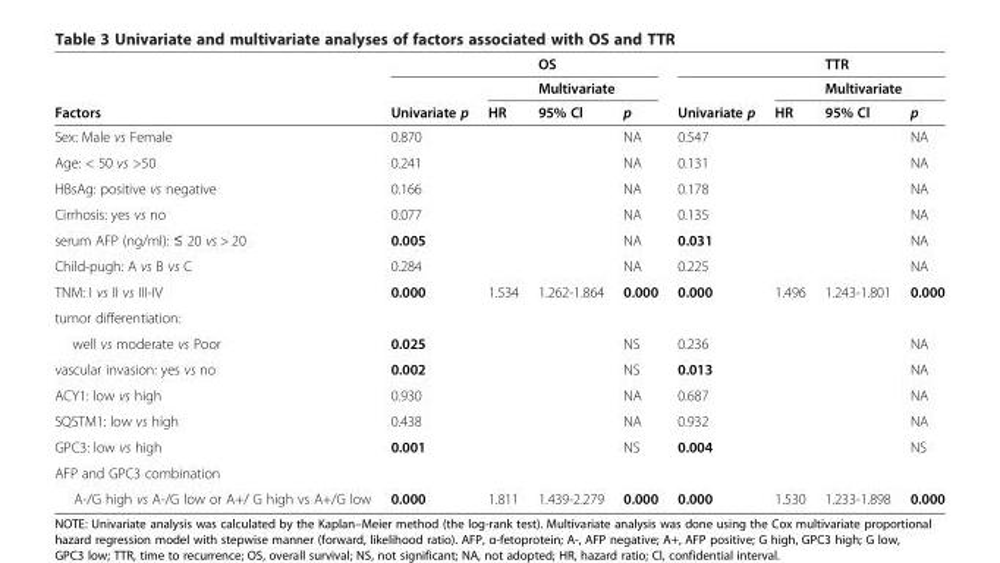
<table><thead><tr><td rowspan="3">Factors</td><td rowspan="3">Univariate p</td><td rowspan="3">HR</td><td rowspan="2" colspan="2">OS Multivariate</td><td rowspan="3">Univariate p</td><td rowspan="3">HR</td><td rowspan="2" colspan="2">TTR Multivariate</td></tr><tr></tr><tr><td>95% Cl</td><td>p</td><td>95% Cl</td><td>p</td></tr></thead><tbody><tr><td>Sex: Male vs Female</td><td>0.870</td><td></td><td></td><td>NA</td><td>0.547</td><td></td><td></td><td>NA</td></tr><tr><td>Age: &lt; 50 vs &gt;50</td><td>0.241</td><td></td><td></td><td>NA</td><td>0.131</td><td></td><td></td><td>NA</td></tr><tr><td>HBsAg: positive vs negative</td><td>0.166</td><td></td><td></td><td>NA</td><td>0.178</td><td></td><td></td><td>NA</td></tr><tr><td>Cirrhosis: yes vs no</td><td>0.077</td><td></td><td></td><td>NA</td><td>0.135</td><td></td><td></td><td>NA</td></tr><tr><td>serum AFP (ng/ml): ≤ 20 vs &gt; 20</td><td>0.005</td><td></td><td></td><td>NA</td><td>0.031</td><td></td><td></td><td>NA</td></tr><tr><td>Child-pugh: A vs B vs C</td><td>0.284</td><td></td><td></td><td>NA</td><td>0.225</td><td></td><td></td><td>NA</td></tr><tr><td>TNM: I vs II vs III-IV</td><td>0.000</td><td>1.534</td><td>1.262-1.864</td><td>0.000</td><td>0.000</td><td>1.496</td><td>1.243-1.801</td><td>0.000</td></tr><tr><td colspan="9">tumor differentiation:</td></tr><tr><td>well vs moderate vs Poor</td><td>0.025</td><td></td><td></td><td>NS</td><td>0.236</td><td></td><td></td><td>NA</td></tr><tr><td>vascular invasion: yes vs no</td><td>0.002</td><td></td><td></td><td>NS</td><td>0.013</td><td></td><td></td><td>NA</td></tr><tr><td>ACY1: low vs high</td><td>0.930</td><td></td><td></td><td>NA</td><td>0.687</td><td></td><td></td><td>NA</td></tr><tr><td>SQSTM1: low vs high</td><td>0.438</td><td></td><td></td><td>NA</td><td>0.932</td><td></td><td></td><td>NA</td></tr><tr><td>GPC3: low vs high</td><td>0.001</td><td></td><td></td><td>NS</td><td>0.004</td><td></td><td></td><td>NS</td></tr><tr><td colspan="9">AFP and GPC3 combination</td></tr><tr><td>A-/G high vs A-/G low or A+/ G high vs A+/G low</td><td>0.000</td><td>1.811</td><td>1.439-2.279</td><td>0.000</td><td>0.000</td><td>1.530</td><td>1.233-1.898</td><td>0.000</td></tr></tbody></table>